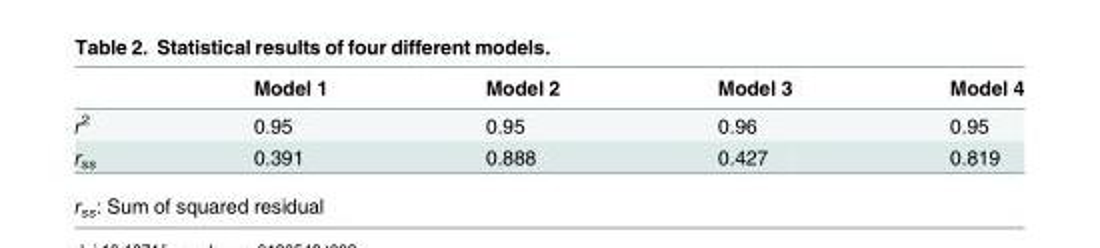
<table><thead><tr><td></td><td>Model 1</td><td>Model 2</td><td>Model 3</td><td>Model 4</td></tr></thead><tbody><tr><td>r<sup>2</sup></td><td>0.95</td><td>0.95</td><td>0.96</td><td>0.95</td></tr><tr><td>r<sub>ss</sub></td><td>0.391</td><td>0.888</td><td>0.427</td><td>0.819</td></tr></tbody></table>